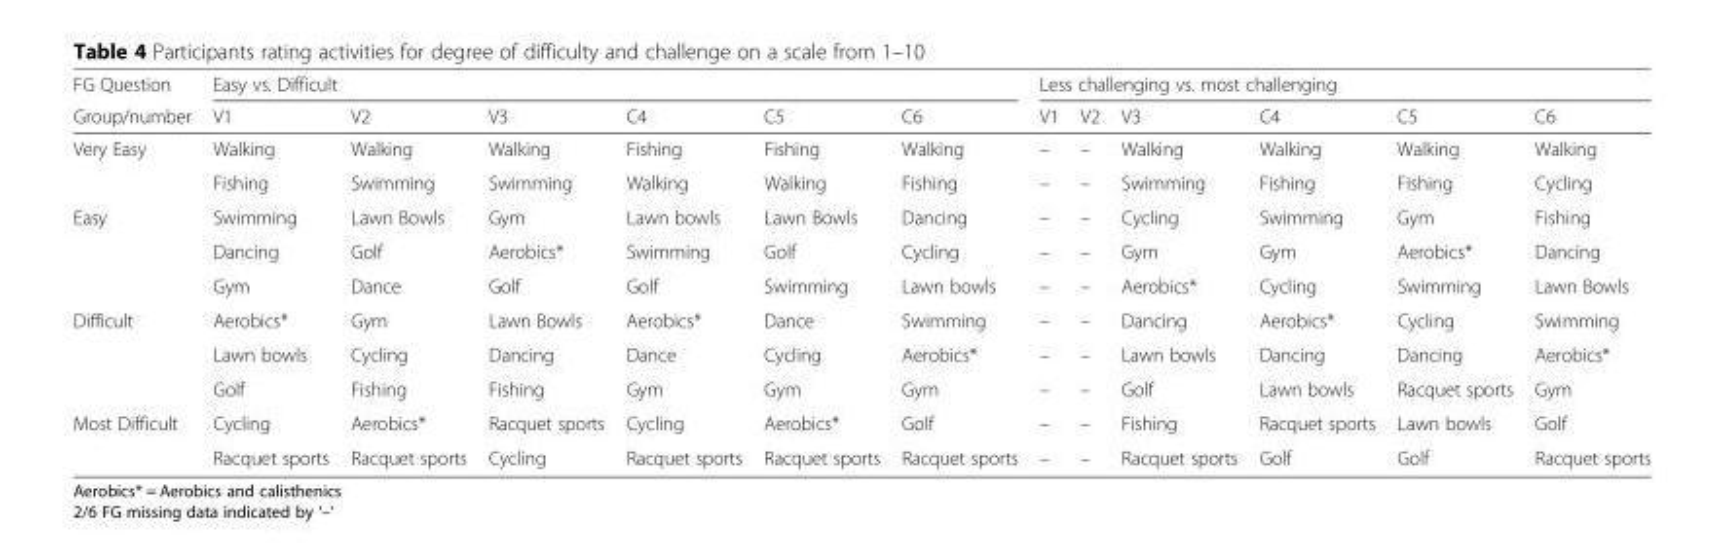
<table><thead><tr><td rowspan="2">FG Question Group/number</td><td colspan="6">Easy vs. Difficult</td><td colspan="6">Less challenging vs. most challenging</td></tr><tr><td>V1</td><td>V2</td><td>V3</td><td>C4</td><td>C5</td><td>C6</td><td>V1</td><td>V2</td><td>V3</td><td>C4</td><td>C5</td><td>C6</td></tr></thead><tbody><tr><td rowspan="2">Very Easy</td><td>Walking</td><td>Walking</td><td>Walking</td><td>Fishing</td><td>Fishing</td><td>Walking</td><td>–</td><td>–</td><td>Walking</td><td>Walking</td><td>Walking</td><td>Walking</td></tr><tr><td>Fishing</td><td>Swimming</td><td>Swimming</td><td>Walking</td><td>Walking</td><td>Fishing</td><td>–</td><td>–</td><td>Swimming</td><td>Fishing</td><td>Fishing</td><td>Cycling</td></tr><tr><td rowspan="3">Easy</td><td>Swimming</td><td>Lawn Bowls</td><td>Gym</td><td>Lawn bowls</td><td>Lawn Bowls</td><td>Dancing</td><td>–</td><td>–</td><td>Cycling</td><td>Swimming</td><td>Gym</td><td>Fishing</td></tr><tr><td>Dancing</td><td>Golf</td><td>Aerobics*</td><td>Swimming</td><td>Golf</td><td>Cycling</td><td>–</td><td>–</td><td>Gym</td><td>Gym</td><td>Aerobics*</td><td>Dancing</td></tr><tr><td>Gym</td><td>Dance</td><td>Golf</td><td>Golf</td><td>Swimming</td><td>Lawn bowls</td><td>–</td><td>–</td><td>Aerobics*</td><td>Cycling</td><td>Swimming</td><td>Lawn Bowls</td></tr><tr><td rowspan="3">Difficult</td><td>Aerobics*</td><td>Gym</td><td>Lawn Bowls</td><td>Aerobics*</td><td>Dance</td><td>Swimming</td><td>–</td><td>–</td><td>Dancing</td><td>Aerobics*</td><td>Cycling</td><td>Swimming</td></tr><tr><td>Lawn bowls</td><td>Cycling</td><td>Dancing</td><td>Dance</td><td>Cycling</td><td>Aerobics*</td><td>–</td><td>–</td><td>Lawn bowls</td><td>Dancing</td><td>Dancing</td><td>Aerobics*</td></tr><tr><td>Golf</td><td>Fishing</td><td>Fishing</td><td>Gym</td><td>Gym</td><td>Gym</td><td>–</td><td>–</td><td>Golf</td><td>Lawn bowls</td><td>Racquet sports</td><td>Gym</td></tr><tr><td rowspan="2">Most Difficult</td><td>Cycling</td><td>Aerobics*</td><td>Racquet sports</td><td>Cycling</td><td>Aerobics*</td><td>Golf</td><td>–</td><td>–</td><td>Fishing</td><td>Racquet sports</td><td>Lawn bowls</td><td>Golf</td></tr><tr><td>Racquet sports</td><td>Racquet sports</td><td>Cycling</td><td>Racquet sports</td><td>Racquet sports</td><td>Racquet sports</td><td>–</td><td>–</td><td>Racquet sports</td><td>Golf</td><td>Golf</td><td>Racquet sports</td></tr></tbody></table>